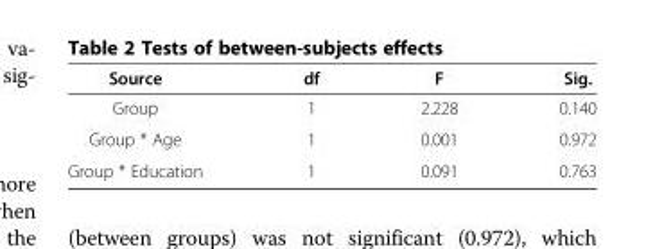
<table><thead><tr><td>Source</td><td>df</td><td>F</td><td>Sig.</td></tr></thead><tbody><tr><td>Group</td><td>1</td><td>2.228</td><td>0.140</td></tr><tr><td>Group * Age</td><td>1</td><td>0.001</td><td>0.972</td></tr><tr><td>Group * Education</td><td>1</td><td>0.091</td><td>0.763</td></tr></tbody></table>